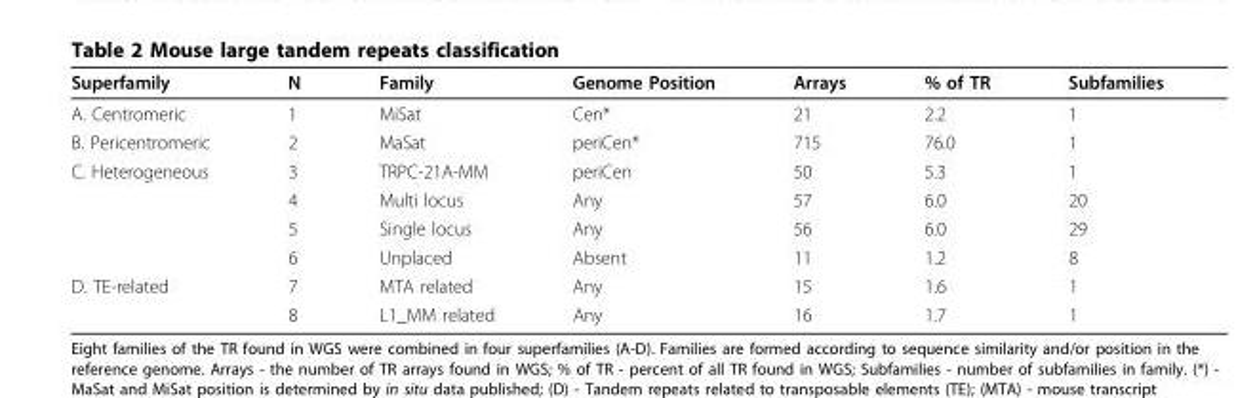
<table><thead><tr><td>Superfamily</td><td>N</td><td>Family</td><td>Genome Position</td><td>Arrays</td><td>% of TR</td><td>Subfamilies</td></tr></thead><tbody><tr><td>A. Centromeric</td><td>1</td><td>MiSat</td><td>Cen*</td><td>21</td><td>2.2</td><td>1</td></tr><tr><td>B. Pericentromeric</td><td>2</td><td>MaSat</td><td>periCen*</td><td>715</td><td>76.0</td><td>1</td></tr><tr><td rowspan="4">C. Heterogeneous</td><td>3</td><td>TRPC-21A-MM</td><td>periCen</td><td>50</td><td>5.3</td><td>1</td></tr><tr><td>4</td><td>Multi locus</td><td>Any</td><td>57</td><td>6.0</td><td>20</td></tr><tr><td>5</td><td>Single locus</td><td>Any</td><td>56</td><td>6.0</td><td>29</td></tr><tr><td>6</td><td>Unplaced</td><td>Absent</td><td>11</td><td>1.2</td><td>8</td></tr><tr><td rowspan="2">D. TE-related</td><td>7</td><td>MTA related</td><td>Any</td><td>15</td><td>1.6</td><td>1</td></tr><tr><td>8</td><td>L1_MM related</td><td>Any</td><td>16</td><td>1.7</td><td>1</td></tr></tbody></table>